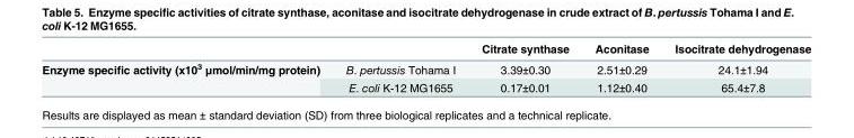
<table><thead><tr><td></td><td></td><td>Citrate synthase</td><td>Aconitase</td><td>Isocitrate dehydrogenase</td></tr></thead><tbody><tr><td rowspan="2">Enzyme specific activity (x10<sup>3</sup> μmol/min/mg protein)</td><td>B. pertussis Tohama I</td><td>3.39±0.30</td><td>2.51±0.29</td><td>24.1±1.94</td></tr><tr><td>E. coli K-12 MG1655</td><td>0.17±0.01</td><td>1.12±0.40</td><td>65.4±7.8</td></tr></tbody></table>